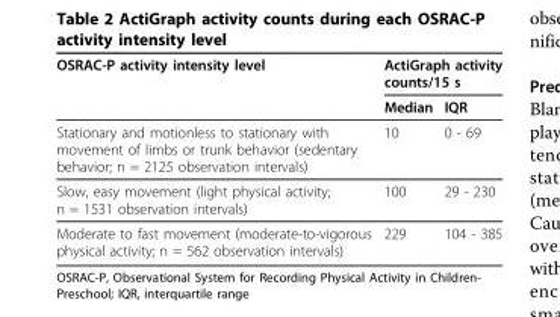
<table><thead><tr><td rowspan="2">OSRAC-P activity intensity level</td><td colspan="2">ActiGraph activity counts/15 s</td></tr><tr><td>Median</td><td>IQR</td></tr></thead><tbody><tr><td>Stationary and motionless to stationary with movement of limbs or trunk behavior (sedentary behavior; n = 2125 observation intervals)</td><td>10</td><td>0 - 69</td></tr><tr><td>Slow, easy movement (light physical activity; n = 1531 observation intervals)</td><td>100</td><td>29 - 230</td></tr><tr><td>Moderate to fast movement (moderate-to-vigorous physical activity; n = 562 observation intervals)</td><td>229</td><td>104 - 385</td></tr></tbody></table>